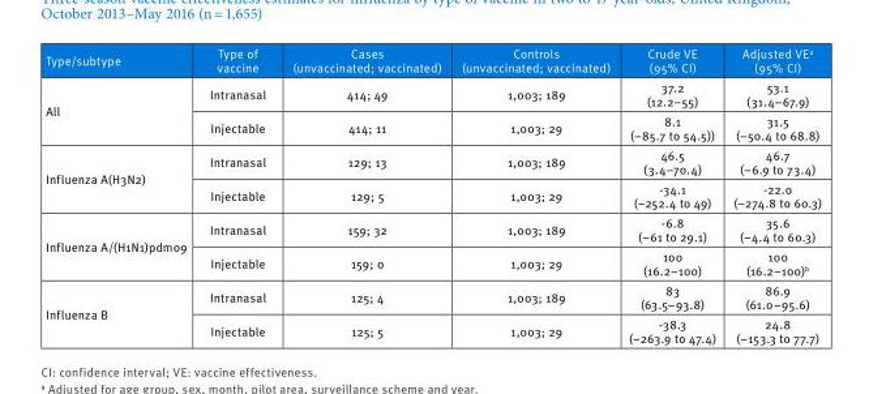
<table><thead><tr><td>Type/subtype</td><td>Type of vaccine</td><td>Cases (unvaccinated; vaccinated)</td><td>Controls (unvaccinated; vaccinated)</td><td>Crude VE (95% CI)</td><td>Adjusted VE<sup>a</sup> (95% CI)</td></tr></thead><tbody><tr><td rowspan="2">All</td><td>Intranasal</td><td>414; 49</td><td>1,003; 189</td><td>37.2 (12.2–55)</td><td>53.1 (31.4–67.9)</td></tr><tr><td>Injectable</td><td>414; 11</td><td>1,003; 29</td><td>8.1 (−85.7 to 54.5))</td><td>31.5 (−50.4 to 68.8)</td></tr><tr><td rowspan="2">Influenza A(H3N2)</td><td>Intranasal</td><td>129; 13</td><td>1,003; 189</td><td>46.5 (3.4–70.4)</td><td>46.7 (−6.9 to 73.4)</td></tr><tr><td>Injectable</td><td>129; 5</td><td>1,003; 29</td><td>-34.1 (−252.4 to 49)</td><td>-22.0 (−274.8 to 60.3)</td></tr><tr><td rowspan="2">Influenza A/(H1N1)pdm09</td><td>Intranasal</td><td>159; 32</td><td>1,003; 189</td><td>-6.8 (−61 to 29.1)</td><td>35.6 (−4.4 to 60.3)</td></tr><tr><td>Injectable</td><td>159; 0</td><td>1,003; 29</td><td>100 (16.2–100)</td><td>100 (16.2–100)<sup>b</sup></td></tr><tr><td rowspan="2">Influenza B</td><td>Intranasal</td><td>125; 4</td><td>1,003; 189</td><td>83 (63.5–93.8)</td><td>86.9 (61.0–95.6)</td></tr><tr><td>Injectable</td><td>125; 5</td><td>1,003; 29</td><td>-38.3 (−263.9 to 47.4)</td><td>24.8 (−153.3 to 77.7)</td></tr></tbody></table>